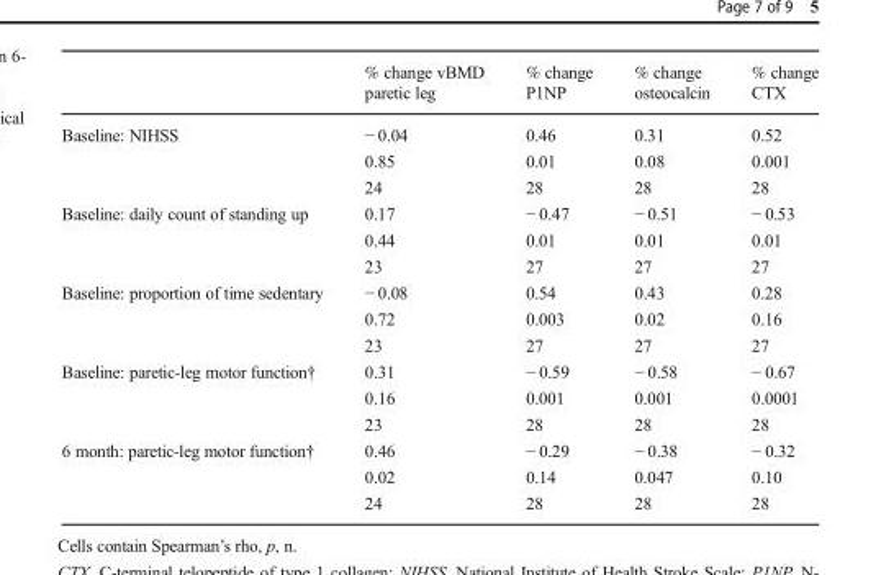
<table><thead><tr><td></td><td>% change vBMD paretic leg</td><td>% change P1NP</td><td>% change osteocalcin</td><td>% change CTX</td></tr></thead><tbody><tr><td rowspan="3">Baseline: NIHSS</td><td>− 0.04</td><td>0.46</td><td>0.31</td><td>0.52</td></tr><tr><td>0.85</td><td>0.01</td><td>0.08</td><td>0.001</td></tr><tr><td>24</td><td>28</td><td>28</td><td>28</td></tr><tr><td rowspan="3">Baseline: daily count of standing up</td><td>0.17</td><td>− 0.47</td><td>− 0.51</td><td>− 0.53</td></tr><tr><td>0.44</td><td>0.01</td><td>0.01</td><td>0.01</td></tr><tr><td>23</td><td>27</td><td>27</td><td>27</td></tr><tr><td rowspan="3">Baseline: proportion of time sedentary</td><td>− 0.08</td><td>0.54</td><td>0.43</td><td>0.28</td></tr><tr><td>0.72</td><td>0.003</td><td>0.02</td><td>0.16</td></tr><tr><td>23</td><td>27</td><td>27</td><td>27</td></tr><tr><td rowspan="3">Baseline: paretic-leg motor function†</td><td>0.31</td><td>− 0.59</td><td>− 0.58</td><td>− 0.67</td></tr><tr><td>0.16</td><td>0.001</td><td>0.001</td><td>0.0001</td></tr><tr><td>23</td><td>28</td><td>28</td><td>28</td></tr><tr><td rowspan="3">6 month: paretic-leg motor function†</td><td>0.46</td><td>− 0.29</td><td>− 0.38</td><td>− 0.32</td></tr><tr><td>0.02</td><td>0.14</td><td>0.047</td><td>0.10</td></tr><tr><td>24</td><td>28</td><td>28</td><td>28</td></tr></tbody></table>